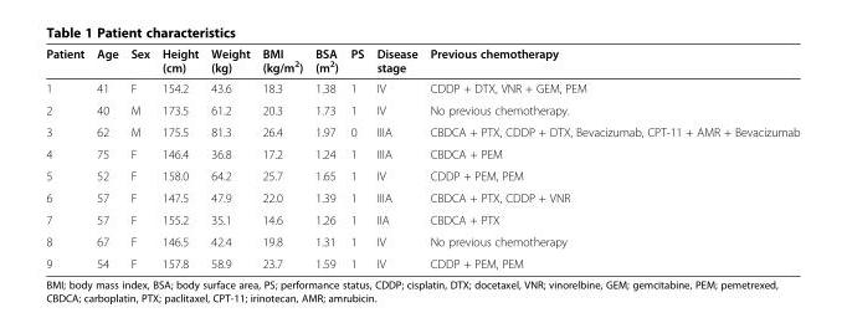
<table><thead><tr><td>Patient</td><td>Age</td><td>Sex</td><td>Height (cm)</td><td>Weight (kg)</td><td>BMI (kg/m<sup>2</sup>)</td><td>BSA (m<sup>2</sup>)</td><td>PS</td><td>Disease stage</td><td>Previous chemotherapy</td></tr></thead><tbody><tr><td>1</td><td>41</td><td>F</td><td>154.2</td><td>43.6</td><td>18.3</td><td>1.38</td><td>1</td><td>IV</td><td>CDDP + DTX, VNR + GEM, PEM</td></tr><tr><td>2</td><td>40</td><td>M</td><td>173.5</td><td>61.2</td><td>20.3</td><td>1.73</td><td>1</td><td>IV</td><td>No previous chemotherapy.</td></tr><tr><td>3</td><td>62</td><td>M</td><td>175.5</td><td>81.3</td><td>26.4</td><td>1.97</td><td>0</td><td>IIIA</td><td>CBDCA + PTX, CDDP + DTX, Bevacizumab, CPT-11 + AMR + Bevacizumab</td></tr><tr><td>4</td><td>75</td><td>F</td><td>146.4</td><td>36.8</td><td>17.2</td><td>1.24</td><td>1</td><td>IIIA</td><td>CBDCA + PEM</td></tr><tr><td>5</td><td>52</td><td>F</td><td>158.0</td><td>64.2</td><td>25.7</td><td>1.65</td><td>1</td><td>IV</td><td>CDDP + PEM, PEM</td></tr><tr><td>6</td><td>57</td><td>F</td><td>147.5</td><td>47.9</td><td>22.0</td><td>1.39</td><td>1</td><td>IIIA</td><td>CBDCA + PTX, CDDP + VNR</td></tr><tr><td>7</td><td>57</td><td>F</td><td>155.2</td><td>35.1</td><td>14.6</td><td>1.26</td><td>1</td><td>IIA</td><td>CBDCA + PTX</td></tr><tr><td>8</td><td>67</td><td>F</td><td>146.5</td><td>42.4</td><td>19.8</td><td>1.31</td><td>1</td><td>IV</td><td>No previous chemotherapy</td></tr><tr><td>9</td><td>54</td><td>F</td><td>157.8</td><td>58.9</td><td>23.7</td><td>1.59</td><td>1</td><td>IV</td><td>CDDP + PEM, PEM</td></tr></tbody></table>